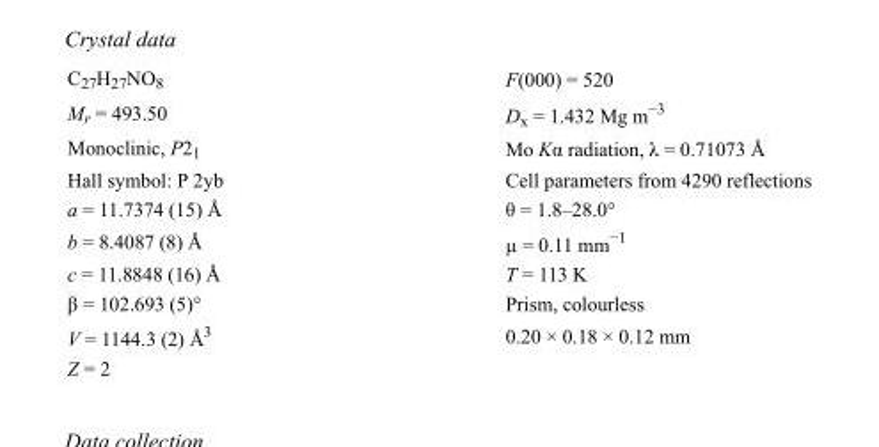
<table><tbody><tr><td>C<sub>27</sub>H<sub>27</sub>NO<sub>8</sub></td><td>F(000) = 520</td></tr><tr><td>M<sub>r</sub> = 493.50</td><td>D<sub>x</sub> = 1.432 Mg m<sup>−3</sup></td></tr><tr><td>Monoclinic, P2<sub>1</sub></td><td>Mo Kα radiation, λ = 0.71073 Å</td></tr><tr><td>Hall symbol: P 2yb</td><td>Cell parameters from 4290 reflections</td></tr><tr><td>a = 11.7374 (15) Å</td><td>θ = 1.8–28.0°</td></tr><tr><td>b = 8.4087 (8) Å</td><td>µ = 0.11 mm<sup>−1</sup></td></tr><tr><td>c = 11.8848 (16) Å</td><td>T = 113 K</td></tr><tr><td>β = 102.693 (5)°</td><td>Prism, colourless</td></tr><tr><td>V = 1144.3 (2) Å<sup>3</sup></td><td>0.20 × 0.18 × 0.12 mm</td></tr><tr><td>Z = 2</td><td></td></tr></tbody></table>